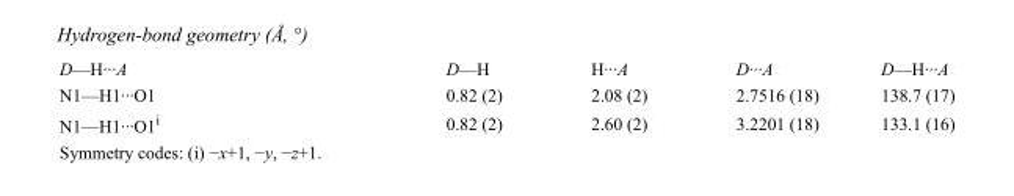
<table><tbody><tr><td>D—H···A</td><td>D—H</td><td>H···A</td><td>D···A</td><td>D—H···A</td></tr><tr><td>N1—H1···O1</td><td>0.82 (2)</td><td>2.08 (2)</td><td>2.7516 (18)</td><td>138.7 (17)</td></tr><tr><td>N1—H1···O1<sup>i</sup></td><td>0.82 (2)</td><td>2.60 (2)</td><td>3.2201 (18)</td><td>133.1 (16)</td></tr></tbody></table>